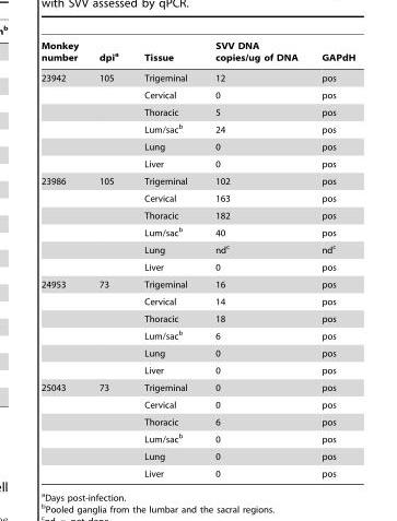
<table><thead><tr><td>Monkey number</td><td>dpi<sup>a</sup></td><td>Tissue</td><td>SVV DNA copies/ug of DNA</td><td>GAPdH</td></tr></thead><tbody><tr><td rowspan="6">23942</td><td>105</td><td>Trigeminal</td><td>12</td><td>pos</td></tr><tr><td></td><td>Cervical</td><td>0</td><td>pos</td></tr><tr><td></td><td>Thoracic</td><td>5</td><td>pos</td></tr><tr><td></td><td>Lum/sac<sup>b</sup></td><td>24</td><td>pos</td></tr><tr><td></td><td>Lung</td><td>0</td><td>pos</td></tr><tr><td></td><td>Liver</td><td>0</td><td>pos</td></tr><tr><td rowspan="6">23986</td><td>105</td><td>Trigeminal</td><td>102</td><td>pos</td></tr><tr><td></td><td>Cervical</td><td>163</td><td>pos</td></tr><tr><td></td><td>Thoracic</td><td>182</td><td>pos</td></tr><tr><td></td><td>Lum/sac<sup>b</sup></td><td>40</td><td>pos</td></tr><tr><td></td><td>Lung</td><td>nd<sup>c</sup></td><td>nd<sup>c</sup></td></tr><tr><td></td><td>Liver</td><td>0</td><td>pos</td></tr><tr><td rowspan="6">24953</td><td>73</td><td>Trigeminal</td><td>16</td><td>pos</td></tr><tr><td></td><td>Cervical</td><td>14</td><td>pos</td></tr><tr><td></td><td>Thoracic</td><td>18</td><td>pos</td></tr><tr><td></td><td>Lum/sac<sup>b</sup></td><td>6</td><td>pos</td></tr><tr><td></td><td>Lung</td><td>0</td><td>pos</td></tr><tr><td></td><td>Liver</td><td>0</td><td>pos</td></tr><tr><td rowspan="6">25043</td><td>73</td><td>Trigeminal</td><td>0</td><td>pos</td></tr><tr><td></td><td>Cervical</td><td>0</td><td>pos</td></tr><tr><td></td><td>Thoracic</td><td>6</td><td>pos</td></tr><tr><td></td><td>Lum/sac<sup>b</sup></td><td>0</td><td>pos</td></tr><tr><td></td><td>Lung</td><td>0</td><td>pos</td></tr><tr><td></td><td>Liver</td><td>0</td><td>pos</td></tr></tbody></table>